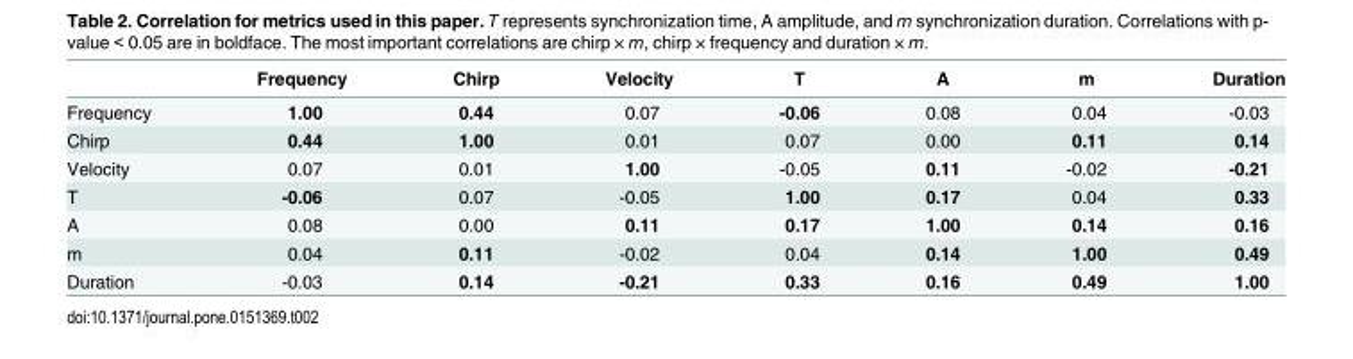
<table><thead><tr><td></td><td>Frequency</td><td>Chirp</td><td>Velocity</td><td>T</td><td>A</td><td>m</td><td>Duration</td></tr></thead><tbody><tr><td>Frequency</td><td>1.00</td><td>0.44</td><td>0.07</td><td>-0.06</td><td>0.08</td><td>0.04</td><td>-0.03</td></tr><tr><td>Chirp</td><td>0.44</td><td>1.00</td><td>0.01</td><td>0.07</td><td>0.00</td><td>0.11</td><td>0.14</td></tr><tr><td>Velocity</td><td>0.07</td><td>0.01</td><td>1.00</td><td>-0.05</td><td>0.11</td><td>-0.02</td><td>-0.21</td></tr><tr><td>T</td><td>-0.06</td><td>0.07</td><td>-0.05</td><td>1.00</td><td>0.17</td><td>0.04</td><td>0.33</td></tr><tr><td>A</td><td>0.08</td><td>0.00</td><td>0.11</td><td>0.17</td><td>1.00</td><td>0.14</td><td>0.16</td></tr><tr><td>m</td><td>0.04</td><td>0.11</td><td>-0.02</td><td>0.04</td><td>0.14</td><td>1.00</td><td>0.49</td></tr><tr><td>Duration</td><td>-0.03</td><td>0.14</td><td>-0.21</td><td>0.33</td><td>0.16</td><td>0.49</td><td>1.00</td></tr></tbody></table>